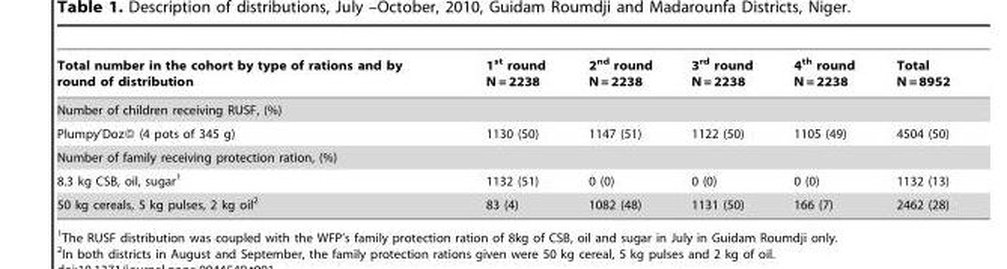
<table><thead><tr><td>Total number in the cohort by type of rations and by round of distribution</td><td>1<sup>st</sup> round N = 2238</td><td>2<sup>nd</sup> round N = 2238</td><td>3<sup>rd</sup> round N = 2238</td><td>4<sup>th</sup> round N = 2238</td><td>Total N = 8952</td></tr></thead><tbody><tr><td colspan="6">Number of children receiving RUSF, (%)</td></tr><tr><td>Plumpy’Doz© (4 pots of 345 g)</td><td>1130 (50)</td><td>1147 (51)</td><td>1122 (50)</td><td>1105 (49)</td><td>4504 (50)</td></tr><tr><td colspan="6">Number of family receiving protection ration, (%)</td></tr><tr><td>8.3 kg CSB, oil, sugar<sup>1</sup></td><td>1132 (51)</td><td>0 (0)</td><td>0 (0)</td><td>0 (0)</td><td>1132 (13)</td></tr><tr><td>50 kg cereals, 5 kg pulses, 2 kg oil<sup>2</sup></td><td>83 (4)</td><td>1082 (48)</td><td>1131 (50)</td><td>166 (7)</td><td>2462 (28)</td></tr></tbody></table>